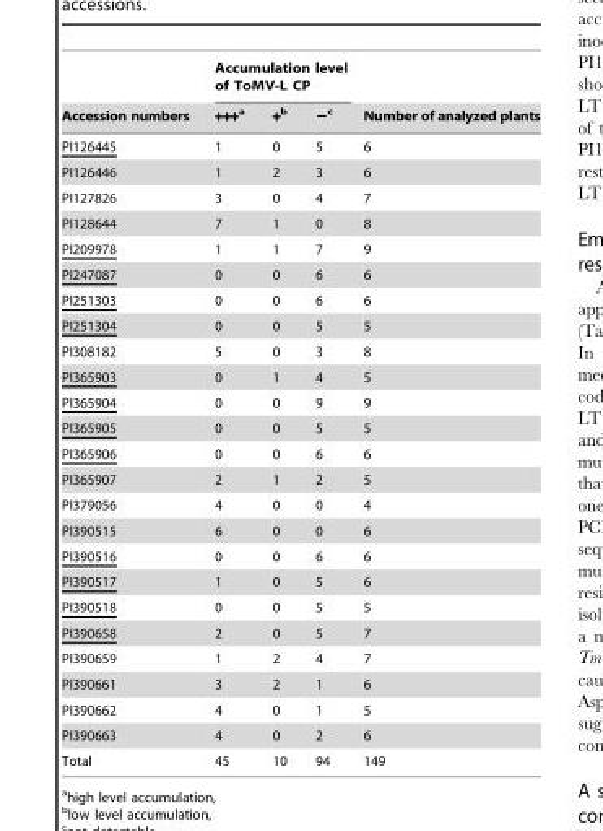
<table><thead><tr><td rowspan="2">Accession numbers</td><td colspan="3">Accumulation level of ToMV-L CP</td><td rowspan="2">Number of analyzed plants</td></tr><tr><td>+++<sup>a</sup></td><td>+<sup>b</sup></td><td>−c</td></tr></thead><tbody><tr><td>PI126445</td><td>1</td><td>0</td><td>5</td><td>6</td></tr><tr><td>PI126446</td><td>1</td><td>2</td><td>3</td><td>6</td></tr><tr><td>PI127826</td><td>3</td><td>0</td><td>4</td><td>7</td></tr><tr><td>PI128644</td><td>7</td><td>1</td><td>0</td><td>8</td></tr><tr><td>PI209978</td><td>1</td><td>1</td><td>7</td><td>9</td></tr><tr><td>PI247087</td><td>0</td><td>0</td><td>6</td><td>6</td></tr><tr><td>PI251303</td><td>0</td><td>0</td><td>6</td><td>6</td></tr><tr><td>PI251304</td><td>0</td><td>0</td><td>5</td><td>5</td></tr><tr><td>PI308182</td><td>5</td><td>0</td><td>3</td><td>8</td></tr><tr><td>PI365903</td><td>0</td><td>1</td><td>4</td><td>5</td></tr><tr><td>PI365904</td><td>0</td><td>0</td><td>9</td><td>9</td></tr><tr><td>PI365905</td><td>0</td><td>0</td><td>5</td><td>5</td></tr><tr><td>PI365906</td><td>0</td><td>0</td><td>6</td><td>6</td></tr><tr><td>PI365907</td><td>2</td><td>1</td><td>2</td><td>5</td></tr><tr><td>PI379056</td><td>4</td><td>0</td><td>0</td><td>4</td></tr><tr><td>PI390515</td><td>6</td><td>0</td><td>0</td><td>6</td></tr><tr><td>PI390516</td><td>0</td><td>0</td><td>6</td><td>6</td></tr><tr><td>PI390517</td><td>1</td><td>0</td><td>5</td><td>6</td></tr><tr><td>PI390518</td><td>0</td><td>0</td><td>5</td><td>5</td></tr><tr><td>PI390658</td><td>2</td><td>0</td><td>5</td><td>7</td></tr><tr><td>PI390659</td><td>1</td><td>2</td><td>4</td><td>7</td></tr><tr><td>PI390661</td><td>3</td><td>2</td><td>1</td><td>6</td></tr><tr><td>PI390662</td><td>4</td><td>0</td><td>1</td><td>5</td></tr><tr><td>PI390663</td><td>4</td><td>0</td><td>2</td><td>6</td></tr><tr><td>Total</td><td>45</td><td>10</td><td>94</td><td>149</td></tr></tbody></table>